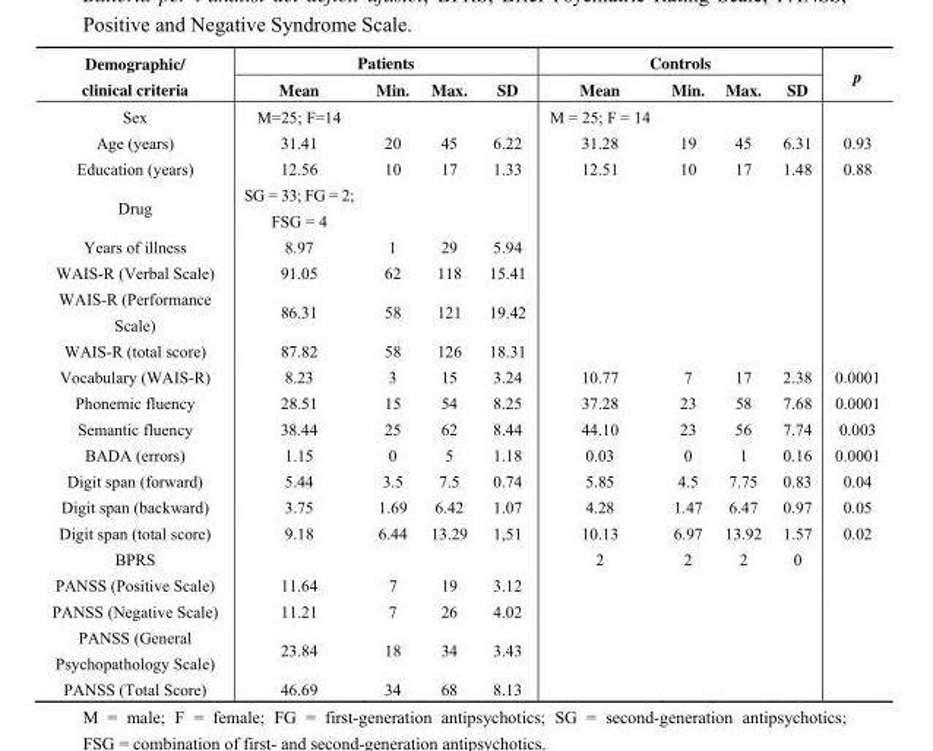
<table><thead><tr><td rowspan="2">Demographic/ clinical criteria</td><td colspan="4">Patients</td><td colspan="4">Controls</td><td rowspan="2">p</td></tr><tr><td>Mean</td><td>Min.</td><td>Max.</td><td>SD</td><td>Mean</td><td>Min.</td><td>Max.</td><td>SD</td></tr></thead><tbody><tr><td>Sex</td><td>M=25; F=14</td><td></td><td></td><td></td><td>M = 25; F = 14</td><td></td><td></td><td></td><td></td></tr><tr><td>Age (years)</td><td>31.41</td><td>20</td><td>45</td><td>6.22</td><td>31.28</td><td>19</td><td>45</td><td>6.31</td><td>0.93</td></tr><tr><td>Education (years)</td><td>12.56</td><td>10</td><td>17</td><td>1.33</td><td>12.51</td><td>10</td><td>17</td><td>1.48</td><td>0.88</td></tr><tr><td>Drug</td><td>SG = 33; FG = 2; FSG = 4</td><td></td><td></td><td></td><td></td><td></td><td></td><td></td><td></td></tr><tr><td>Years of illness</td><td>8.97</td><td>1</td><td>29</td><td>5.94</td><td></td><td></td><td></td><td></td><td></td></tr><tr><td>WAIS-R (Verbal Scale)</td><td>91.05</td><td>62</td><td>118</td><td>15.41</td><td></td><td></td><td></td><td></td><td></td></tr><tr><td>WAIS-R (Performance Scale)</td><td>86.31</td><td>58</td><td>121</td><td>19.42</td><td></td><td></td><td></td><td></td><td></td></tr><tr><td>WAIS-R (total score)</td><td>87.82</td><td>58</td><td>126</td><td>18.31</td><td></td><td></td><td></td><td></td><td></td></tr><tr><td>Vocabulary (WAIS-R)</td><td>8.23</td><td>3</td><td>15</td><td>3.24</td><td>10.77</td><td>7</td><td>17</td><td>2.38</td><td>0.0001</td></tr><tr><td>Phonemic fluency</td><td>28.51</td><td>15</td><td>54</td><td>8.25</td><td>37.28</td><td>23</td><td>58</td><td>7.68</td><td>0.0001</td></tr><tr><td>Semantic fluency</td><td>38.44</td><td>25</td><td>62</td><td>8.44</td><td>44.10</td><td>23</td><td>56</td><td>7.74</td><td>0.003</td></tr><tr><td>BADA (errors)</td><td>1.15</td><td>0</td><td>5</td><td>1.18</td><td>0.03</td><td>0</td><td>1</td><td>0.16</td><td>0.0001</td></tr><tr><td>Digit span (forward)</td><td>5.44</td><td>3.5</td><td>7.5</td><td>0.74</td><td>5.85</td><td>4.5</td><td>7.75</td><td>0.83</td><td>0.04</td></tr><tr><td>Digit span (backward)</td><td>3.75</td><td>1.69</td><td>6.42</td><td>1.07</td><td>4.28</td><td>1.47</td><td>6.47</td><td>0.97</td><td>0.05</td></tr><tr><td>Digit span (total score)</td><td>9.18</td><td>6.44</td><td>13.29</td><td>1,51</td><td>10.13</td><td>6.97</td><td>13.92</td><td>1.57</td><td>0.02</td></tr><tr><td>BPRS</td><td></td><td></td><td></td><td></td><td>2</td><td>2</td><td>2</td><td>0</td><td></td></tr><tr><td>PANSS (Positive Scale)</td><td>11.64</td><td>7</td><td>19</td><td>3.12</td><td></td><td></td><td></td><td></td><td></td></tr><tr><td>PANSS (Negative Scale)</td><td>11.21</td><td>7</td><td>26</td><td>4.02</td><td></td><td></td><td></td><td></td><td></td></tr><tr><td>PANSS (General Psychopathology Scale)</td><td>23.84</td><td>18</td><td>34</td><td>3.43</td><td></td><td></td><td></td><td></td><td></td></tr><tr><td>PANSS (Total Score)</td><td>46.69</td><td>34</td><td>68</td><td>8.13</td><td></td><td></td><td></td><td></td><td></td></tr></tbody></table>